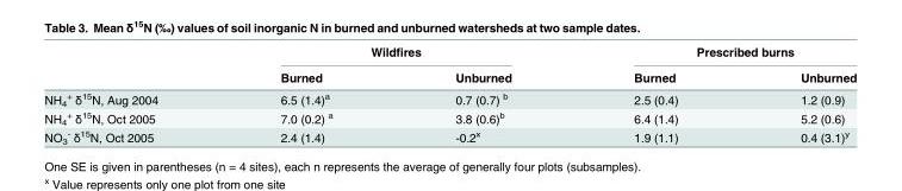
<table><thead><tr><td rowspan="2"></td><td colspan="2">Wildfires</td><td colspan="2">Prescribed burns</td></tr><tr><td>Burned</td><td>Unburned</td><td>Burned</td><td>Unburned</td></tr></thead><tbody><tr><td>NH<sub>4</sub> <sup>+</sup> δ<sup>15</sup>N, Aug 2004</td><td>6.5 (1.4)<sup>a</sup></td><td>0.7 (0.7) <sup>b</sup></td><td>2.5 (0.4)</td><td>1.2 (0.9)</td></tr><tr><td>NH<sub>4</sub> <sup>+</sup> δ<sup>15</sup>N, Oct 2005</td><td>7.0 (0.2) <sup>a</sup></td><td>3.8 (0.6)<sup>b</sup></td><td>6.4 (1.4)</td><td>5.2 (0.6)</td></tr><tr><td>NO<sub>3</sub> <sup>-</sup> δ<sup>15</sup>N, Oct 2005</td><td>2.4 (1.4)</td><td>-0.2<sup>x</sup></td><td>1.9 (1.1)</td><td>0.4 (3.1)<sup>y</sup></td></tr></tbody></table>